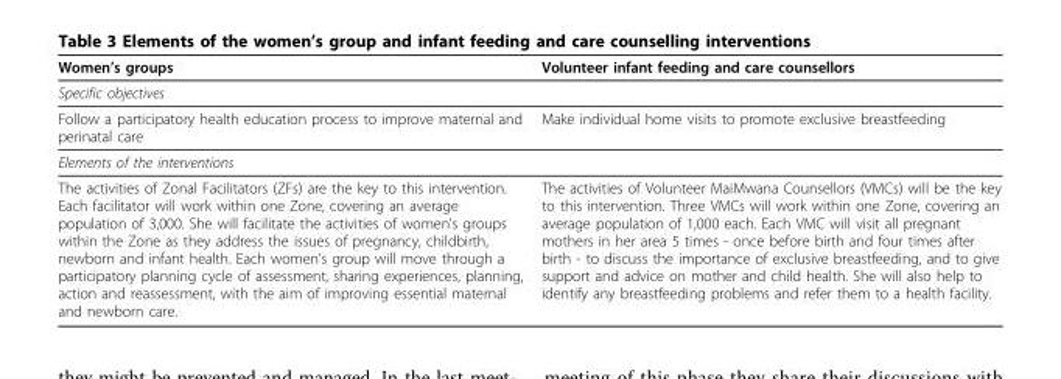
<table><thead><tr><td>Women’s groups</td><td>Volunteer infant feeding and care counsellors</td></tr></thead><tbody><tr><td colspan="2">Specific objectives</td></tr><tr><td>Follow a participatory health education process to improve maternal and perinatal care</td><td>Make individual home visits to promote exclusive breastfeeding</td></tr><tr><td colspan="2">Elements of the interventions</td></tr><tr><td>The activities of Zonal Facilitators (ZFs) are the key to this intervention. Each facilitator will work within one Zone, covering an average population of 3,000. She will facilitate the activities of women’s groups within the Zone as they address the issues of pregnancy, childbirth, newborn and infant health. Each women’s group will move through a participatory planning cycle of assessment, sharing experiences, planning, action and reassessment, with the aim of improving essential maternal and newborn care.</td><td>The activities of Volunteer MaiMwana Counsellors (VMCs) will be the key to this intervention. Three VMCs will work within one Zone, covering an average population of 1,000 each. Each VMC will visit all pregnant mothers in her area 5 times - once before birth and four times after birth - to discuss the importance of exclusive breastfeeding, and to give support and advice on mother and child health. She will also help to identify any breastfeeding problems and refer them to a health facility.</td></tr></tbody></table>